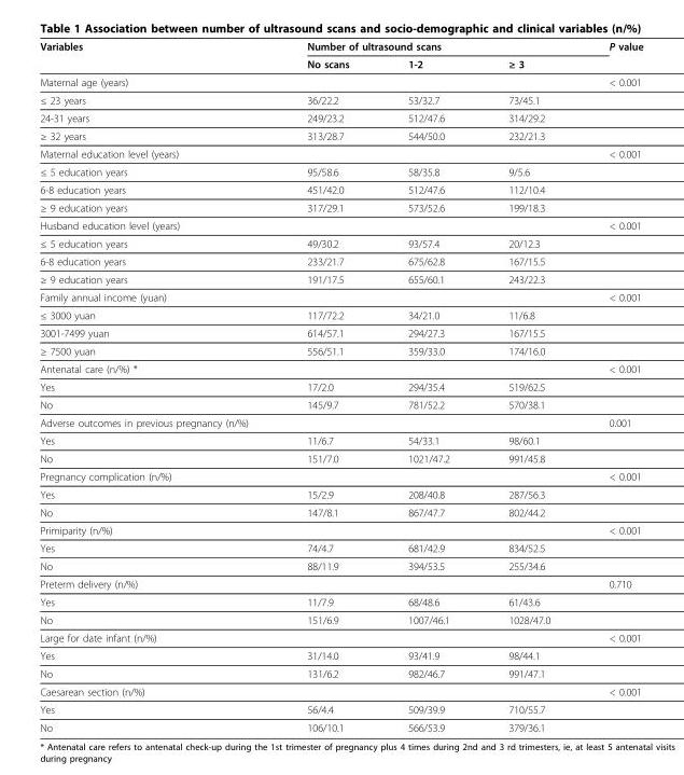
<table><thead><tr><td rowspan="2">Variables</td><td colspan="3">Number of ultrasound scans</td><td rowspan="2">P value</td></tr><tr><td>No scans</td><td>1-2</td><td>≥ 3</td></tr></thead><tbody><tr><td>Maternal age (years)</td><td></td><td></td><td></td><td>&lt; 0.001</td></tr><tr><td>≤ 23 years</td><td>36/22.2</td><td>53/32.7</td><td>73/45.1</td><td></td></tr><tr><td>24-31 years</td><td>249/23.2</td><td>512/47.6</td><td>314/29.2</td><td></td></tr><tr><td>≥ 32 years</td><td>313/28.7</td><td>544/50.0</td><td>232/21.3</td><td></td></tr><tr><td>Maternal education level (years)</td><td></td><td></td><td></td><td>&lt; 0.001</td></tr><tr><td>≤ 5 education years</td><td>95/58.6</td><td>58/35.8</td><td>9/5.6</td><td></td></tr><tr><td>6-8 education years</td><td>451/42.0</td><td>512/47.6</td><td>112/10.4</td><td></td></tr><tr><td>≥ 9 education years</td><td>317/29.1</td><td>573/52.6</td><td>199/18.3</td><td></td></tr><tr><td>Husband education level (years)</td><td></td><td></td><td></td><td>&lt; 0.001</td></tr><tr><td>≤ 5 education years</td><td>49/30.2</td><td>93/57.4</td><td>20/12.3</td><td></td></tr><tr><td>6-8 education years</td><td>233/21.7</td><td>675/62.8</td><td>167/15.5</td><td></td></tr><tr><td>≥ 9 education years</td><td>191/17.5</td><td>655/60.1</td><td>243/22.3</td><td></td></tr><tr><td>Family annual income (yuan)</td><td></td><td></td><td></td><td>&lt; 0.001</td></tr><tr><td>≤ 3000 yuan</td><td>117/72.2</td><td>34/21.0</td><td>11/6.8</td><td></td></tr><tr><td>3001-7499 yuan</td><td>614/57.1</td><td>294/27.3</td><td>167/15.5</td><td></td></tr><tr><td>≥ 7500 yuan</td><td>556/51.1</td><td>359/33.0</td><td>174/16.0</td><td></td></tr><tr><td>Antenatal care (n/%) *</td><td></td><td></td><td></td><td>&lt; 0.001</td></tr><tr><td>Yes</td><td>17/2.0</td><td>294/35.4</td><td>519/62.5</td><td></td></tr><tr><td>No</td><td>145/9.7</td><td>781/52.2</td><td>570/38.1</td><td></td></tr><tr><td>Adverse outcomes in previous pregnancy (n/%)</td><td></td><td></td><td></td><td>0.001</td></tr><tr><td>Yes</td><td>11/6.7</td><td>54/33.1</td><td>98/60.1</td><td></td></tr><tr><td>No</td><td>151/7.0</td><td>1021/47.2</td><td>991/45.8</td><td></td></tr><tr><td>Pregnancy complication (n/%)</td><td></td><td></td><td></td><td>&lt; 0.001</td></tr><tr><td>Yes</td><td>15/2.9</td><td>208/40.8</td><td>287/56.3</td><td></td></tr><tr><td>No</td><td>147/8.1</td><td>867/47.7</td><td>802/44.2</td><td></td></tr><tr><td>Primiparity (n/%)</td><td></td><td></td><td></td><td>&lt; 0.001</td></tr><tr><td>Yes</td><td>74/4.7</td><td>681/42.9</td><td>834/52.5</td><td></td></tr><tr><td>No</td><td>88/11.9</td><td>394/53.5</td><td>255/34.6</td><td></td></tr><tr><td>Preterm delivery (n/%)</td><td></td><td></td><td></td><td>0.710</td></tr><tr><td>Yes</td><td>11/7.9</td><td>68/48.6</td><td>61/43.6</td><td></td></tr><tr><td>No</td><td>151/6.9</td><td>1007/46.1</td><td>1028/47.0</td><td></td></tr><tr><td>Large for date infant (n/%)</td><td></td><td></td><td></td><td>&lt; 0.001</td></tr><tr><td>Yes</td><td>31/14.0</td><td>93/41.9</td><td>98/44.1</td><td></td></tr><tr><td>No</td><td>131/6.2</td><td>982/46.7</td><td>991/47.1</td><td></td></tr><tr><td>Caesarean section (n/%)</td><td></td><td></td><td></td><td>&lt; 0.001</td></tr><tr><td>Yes</td><td>56/4.4</td><td>509/39.9</td><td>710/55.7</td><td></td></tr><tr><td>No</td><td>106/10.1</td><td>566/53.9</td><td>379/36.1</td><td></td></tr></tbody></table>